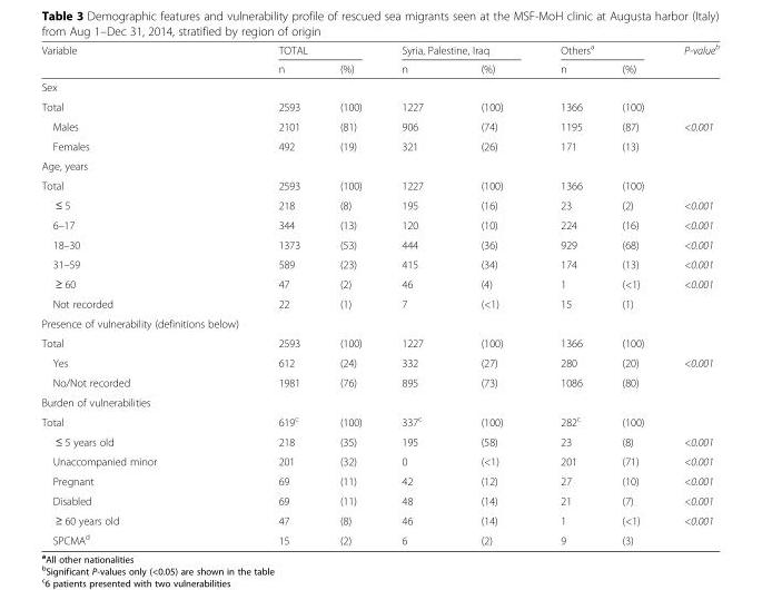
<table><thead><tr><td rowspan="2">Variable</td><td colspan="2">TOTAL</td><td colspan="2">Syria, Palestine, Iraq</td><td colspan="2">Others<sup>a</sup></td><td rowspan="2">P-value<sup>b</sup></td></tr><tr><td>n</td><td>(%)</td><td>n</td><td>(%)</td><td>n</td><td>(%)</td></tr></thead><tbody><tr><td colspan="8">Sex</td></tr><tr><td>Total</td><td>2593</td><td>(100)</td><td>1227</td><td>(100)</td><td>1366</td><td>(100)</td><td></td></tr><tr><td>Males</td><td>2101</td><td>(81)</td><td>906</td><td>(74)</td><td>1195</td><td>(87)</td><td>&lt;0.001</td></tr><tr><td>Females</td><td>492</td><td>(19)</td><td>321</td><td>(26)</td><td>171</td><td>(13)</td><td></td></tr><tr><td colspan="8">Age, years</td></tr><tr><td>Total</td><td>2593</td><td>(100)</td><td>1227</td><td>(100)</td><td>1366</td><td>(100)</td><td></td></tr><tr><td>≤ 5</td><td>218</td><td>(8)</td><td>195</td><td>(16)</td><td>23</td><td>(2)</td><td>&lt;0.001</td></tr><tr><td>6–17</td><td>344</td><td>(13)</td><td>120</td><td>(10)</td><td>224</td><td>(16)</td><td>&lt;0.001</td></tr><tr><td>18–30</td><td>1373</td><td>(53)</td><td>444</td><td>(36)</td><td>929</td><td>(68)</td><td>&lt;0.001</td></tr><tr><td>31–59</td><td>589</td><td>(23)</td><td>415</td><td>(34)</td><td>174</td><td>(13)</td><td>&lt;0.001</td></tr><tr><td>≥ 60</td><td>47</td><td>(2)</td><td>46</td><td>(4)</td><td>1</td><td>(&lt;1)</td><td>&lt;0.001</td></tr><tr><td>Not recorded</td><td>22</td><td>(1)</td><td>7</td><td>(&lt;1)</td><td>15</td><td>(1)</td><td></td></tr><tr><td colspan="8">Presence of vulnerability (definitions below)</td></tr><tr><td>Total</td><td>2593</td><td>(100)</td><td>1227</td><td>(100)</td><td>1366</td><td>(100)</td><td></td></tr><tr><td>Yes</td><td>612</td><td>(24)</td><td>332</td><td>(27)</td><td>280</td><td>(20)</td><td>&lt;0.001</td></tr><tr><td>No/Not recorded</td><td>1981</td><td>(76)</td><td>895</td><td>(73)</td><td>1086</td><td>(80)</td><td></td></tr><tr><td colspan="8">Burden of vulnerabilities</td></tr><tr><td>Total</td><td>619<sup>c</sup></td><td>(100)</td><td>337<sup>c</sup></td><td>(100)</td><td>282<sup>c</sup></td><td>(100)</td><td></td></tr><tr><td>≤ 5 years old</td><td>218</td><td>(35)</td><td>195</td><td>(58)</td><td>23</td><td>(8)</td><td>&lt;0.001</td></tr><tr><td>Unaccompanied minor</td><td>201</td><td>(32)</td><td>0</td><td>(&lt;1)</td><td>201</td><td>(71)</td><td>&lt;0.001</td></tr><tr><td>Pregnant</td><td>69</td><td>(11)</td><td>42</td><td>(12)</td><td>27</td><td>(10)</td><td>&lt;0.001</td></tr><tr><td>Disabled</td><td>69</td><td>(11)</td><td>48</td><td>(14)</td><td>21</td><td>(7)</td><td>&lt;0.001</td></tr><tr><td>≥ 60 years old</td><td>47</td><td>(8)</td><td>46</td><td>(14)</td><td>1</td><td>(&lt;1)</td><td>&lt;0.001</td></tr><tr><td>SPCMA<sup>d</sup></td><td>15</td><td>(2)</td><td>6</td><td>(2)</td><td>9</td><td>(3)</td><td></td></tr></tbody></table>